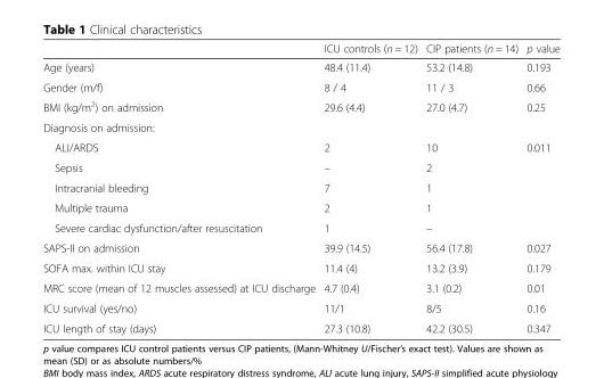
<table><thead><tr><td></td><td>ICU controls (n = 12)</td><td>CIP patients (n = 14)</td><td>p value</td></tr></thead><tbody><tr><td>Age (years)</td><td>48.4 (11.4)</td><td>53.2 (14.8)</td><td>0.193</td></tr><tr><td>Gender (m/f)</td><td>8 / 4</td><td>11 / 3</td><td>0.66</td></tr><tr><td>BMI (kg/m<sup>2</sup>) on admission</td><td>29.6 (4.4)</td><td>27.0 (4.7)</td><td>0.25</td></tr><tr><td colspan="4">Diagnosis on admission:</td></tr><tr><td>ALI/ARDS</td><td>2</td><td>10</td><td>0.011</td></tr><tr><td>Sepsis</td><td>–</td><td>2</td><td></td></tr><tr><td>Intracranial bleeding</td><td>7</td><td>1</td><td></td></tr><tr><td>Multiple trauma</td><td>2</td><td>1</td><td></td></tr><tr><td>Severe cardiac dysfunction/after resuscitation</td><td>1</td><td>–</td><td></td></tr><tr><td>SAPS-II on admission</td><td>39.9 (14.5)</td><td>56.4 (17.8)</td><td>0.027</td></tr><tr><td>SOFA max. within ICU stay</td><td>11.4 (4)</td><td>13.2 (3.9)</td><td>0.179</td></tr><tr><td>MRC score (mean of 12 muscles assessed) at ICU discharge</td><td>4.7 (0.4)</td><td>3.1 (0.2)</td><td>0.01</td></tr><tr><td>ICU survival (yes/no)</td><td>11/1</td><td>8/5</td><td>0.16</td></tr><tr><td>ICU length of stay (days)</td><td>27.3 (10.8)</td><td>42.2 (30.5)</td><td>0.347</td></tr></tbody></table>